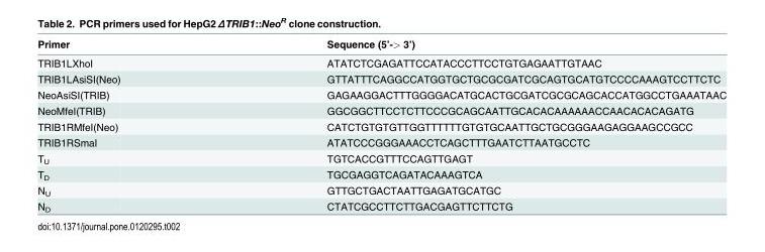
<table><thead><tr><td>Primer</td><td>Sequence (5’-&gt; 3’)</td></tr></thead><tbody><tr><td>TRIB1LXhoI</td><td>ATATCTCGAGATTCCATACCCTTCCTGTGAGAATTGTAAC</td></tr><tr><td>TRIB1LAsiSI(Neo)</td><td>GTTATTTCAGGCCATGGTGCTGCGCGATCGCAGTGCATGTCCCCAAAGTCCTTCTC</td></tr><tr><td>NeoAsiSI(TRIB)</td><td>GAGAAGGACTTTGGGGACATGCACTGCGATCGCGCAGCACCATGGCCTGAAATAAC</td></tr><tr><td>NeoMfeI(TRIB)</td><td>GGCGGCTTCCTCTTCCCGCAGCAATTGCACACAAAAAACCAACACACAGATG</td></tr><tr><td>TRIB1RMfeI(Neo)</td><td>CATCTGTGTGTTGGTTTTTTGTGTGCAATTGCTGCGGGAAGAGGAAGCCGCC</td></tr><tr><td>TRIB1RSmaI</td><td>ATATCCCGGGAAACCTCAGCTTTGAATCTTAATGCCTC</td></tr><tr><td>T<sub>U</sub></td><td>TGTCACCGTTTCCAGTTGAGT</td></tr><tr><td>T<sub>D</sub></td><td>TGCGAGGTCAGATACAAAGTCA</td></tr><tr><td>N<sub>U</sub></td><td>GTTGCTGACTAATTGAGATGCATGC</td></tr><tr><td>N<sub>D</sub></td><td>CTATCGCCTTCTTGACGAGTTCTTCTG</td></tr></tbody></table>